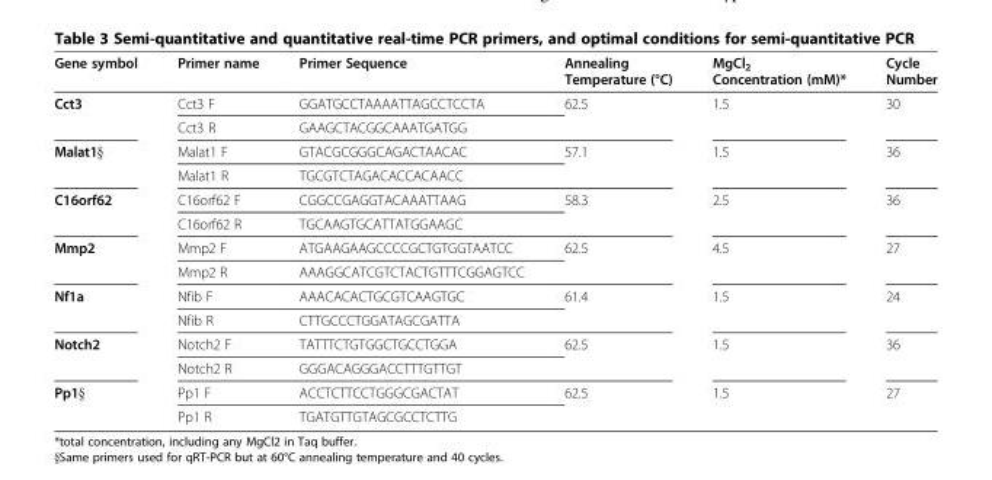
<table><thead><tr><td>Gene symbol</td><td>Primer name</td><td>Primer Sequence</td><td>Annealing Temperature (°C)</td><td>MgCl<sub>2</sub> Concentration (mM)*</td><td>Cycle Number</td></tr></thead><tbody><tr><td rowspan="2">Cct3</td><td>Cct3 F</td><td>GGATGCCTAAAATTAGCCTCCTA</td><td rowspan="2">62.5</td><td rowspan="2">1.5</td><td rowspan="2">30</td></tr><tr><td>Cct3 R</td><td>GAAGCTACGGCAAATGATGG</td></tr><tr><td rowspan="2">Malat1§</td><td>Malat1 F</td><td>GTACGCGGGCAGACTAACAC</td><td rowspan="2">57.1</td><td rowspan="2">1.5</td><td rowspan="2">36</td></tr><tr><td>Malat1 R</td><td>TGCGTCTAGACACCACAACC</td></tr><tr><td rowspan="2">C16orf62</td><td>C16orf62 F</td><td>CGGCCGAGGTACAAATTAAG</td><td rowspan="2">58.3</td><td rowspan="2">2.5</td><td rowspan="2">36</td></tr><tr><td>C16orf62 R</td><td>TGCAAGTGCATTATGGAAGC</td></tr><tr><td rowspan="2">Mmp2</td><td>Mmp2 F</td><td>ATGAAGAAGCCCCGCTGTGGTAATCC</td><td rowspan="2">62.5</td><td rowspan="2">4.5</td><td rowspan="2">27</td></tr><tr><td>Mmp2 R</td><td>AAAGGCATCGTCTACTGTTTCGGAGTCC</td></tr><tr><td rowspan="2">Nf1a</td><td>Nfib F</td><td>AAACACACTGCGTCAAGTGC</td><td rowspan="2">61.4</td><td rowspan="2">1.5</td><td rowspan="2">24</td></tr><tr><td>Nfib R</td><td>CTTGCCCTGGATAGCGATTA</td></tr><tr><td rowspan="2">Notch2</td><td>Notch2 F</td><td>TATTTCTGTGGCTGCCTGGA</td><td rowspan="2">62.5</td><td rowspan="2">1.5</td><td rowspan="2">36</td></tr><tr><td>Notch2 R</td><td>GGGACAGGGACCTTTGTTGT</td></tr><tr><td rowspan="2">Pp1§</td><td>Pp1 F</td><td>ACCTCTTCCTGGGCGACTAT</td><td rowspan="2">62.5</td><td rowspan="2">1.5</td><td rowspan="2">27</td></tr><tr><td>Pp1 R</td><td>TGATGTTGTAGCGCCTCTTG</td></tr></tbody></table>